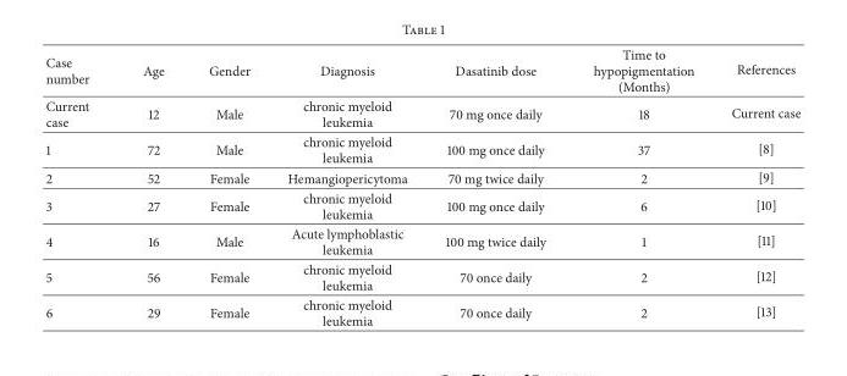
<table><thead><tr><td>Case number</td><td>Age</td><td>Gender</td><td>Diagnosis</td><td>Dasatinib dose</td><td>Time to hypopigmentation (Months)</td><td>References</td></tr></thead><tbody><tr><td>Current case</td><td>12</td><td>Male</td><td>chronic myeloid leukemia</td><td>70 mg once daily</td><td>18</td><td>Current case</td></tr><tr><td>1</td><td>72</td><td>Male</td><td>chronic myeloid leukemia</td><td>100 mg once daily</td><td>37</td><td>[8]</td></tr><tr><td>2</td><td>52</td><td>Female</td><td>Hemangiopericytoma</td><td>70 mg twice daily</td><td>2</td><td>[9]</td></tr><tr><td>3</td><td>27</td><td>Female</td><td>chronic myeloid leukemia</td><td>100 mg once daily</td><td>6</td><td>[10]</td></tr><tr><td>4</td><td>16</td><td>Male</td><td>Acute lymphoblastic leukemia</td><td>100 mg twice daily</td><td>1</td><td>[11]</td></tr><tr><td>5</td><td>56</td><td>Female</td><td>chronic myeloid leukemia</td><td>70 once daily</td><td>2</td><td>[12]</td></tr><tr><td>6</td><td>29</td><td>Female</td><td>chronic myeloid leukemia</td><td>70 once daily</td><td>2</td><td>[13]</td></tr></tbody></table>